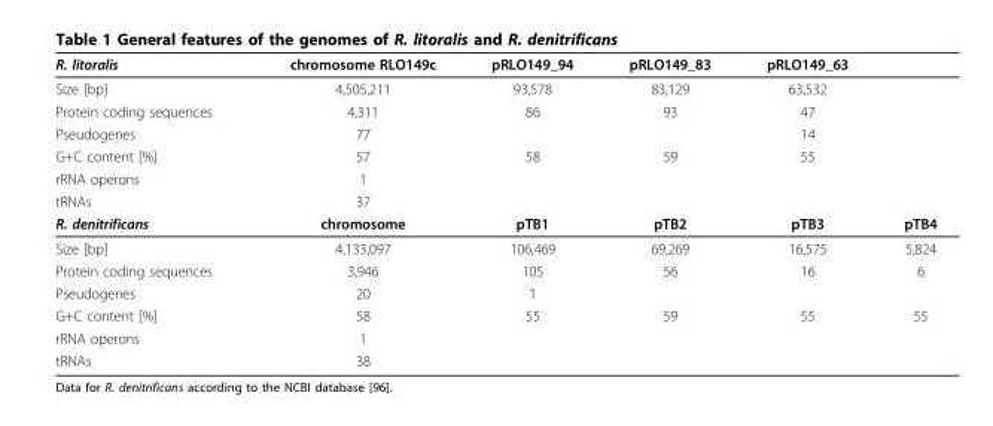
<table><thead><tr><td>R. litoralis</td><td>chromosome RLO149c</td><td>pRLO149_94</td><td>pRLO149_83</td><td>pRLO149_63</td><td></td></tr></thead><tbody><tr><td>Size [bp]</td><td>4,505,211</td><td>93,578</td><td>83,129</td><td>63,532</td><td></td></tr><tr><td>Protein coding sequences</td><td>4,311</td><td>86</td><td>93</td><td>47</td><td></td></tr><tr><td>Pseudogenes</td><td>77</td><td></td><td></td><td>14</td><td></td></tr><tr><td>G+C content [%]</td><td>57</td><td>58</td><td>59</td><td>55</td><td></td></tr><tr><td>rRNA operons</td><td>1</td><td></td><td></td><td></td><td></td></tr><tr><td>tRNAs</td><td>37</td><td></td><td></td><td></td><td></td></tr><tr><td>R. denitrificans</td><td>chromosome</td><td>pTB1</td><td>pTB2</td><td>pTB3</td><td>pTB4</td></tr><tr><td>Size [bp]</td><td>4,133,097</td><td>106,469</td><td>69,269</td><td>16,575</td><td>5,824</td></tr><tr><td>Protein coding sequences</td><td>3,946</td><td>105</td><td>56</td><td>16</td><td>6</td></tr><tr><td>Pseudogenes</td><td>20</td><td>1</td><td></td><td></td><td></td></tr><tr><td>G+C content [%]</td><td>58</td><td>55</td><td>59</td><td>55</td><td>55</td></tr><tr><td>rRNA operons</td><td>1</td><td></td><td></td><td></td><td></td></tr><tr><td>tRNAs</td><td>38</td><td></td><td></td><td></td><td></td></tr></tbody></table>